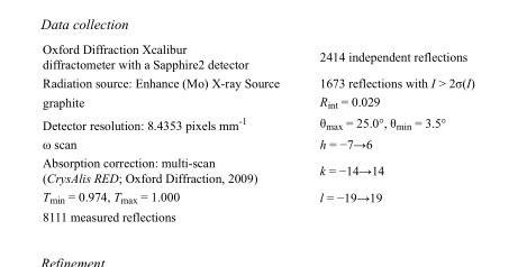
<table><tbody><tr><td>Oxford Diffraction Xcalibur diffractometer with a Sapphire2 detector</td><td>2414 independent reflections</td></tr><tr><td>Radiation source: Enhance (Mo) X-ray Source</td><td>1673 reflections with I &gt; 2σ(I)</td></tr><tr><td>graphite</td><td>R<sub>int</sub> = 0.029</td></tr><tr><td>Detector resolution: 8.4353 pixels mm<sup>-1</sup></td><td>θ<sub>max</sub> = 25.0°, θ<sub>min</sub> = 3.5°</td></tr><tr><td>ω scan</td><td>h = −7→6</td></tr><tr><td>Absorption correction: multi-scan (CrysAlis RED; Oxford Diffraction, 2009)</td><td>k = −14→14</td></tr><tr><td>T<sub>min</sub> = 0.974, T<sub>max</sub> = 1.000</td><td>l = −19→19</td></tr><tr><td>8111 measured reflections</td><td></td></tr></tbody></table>